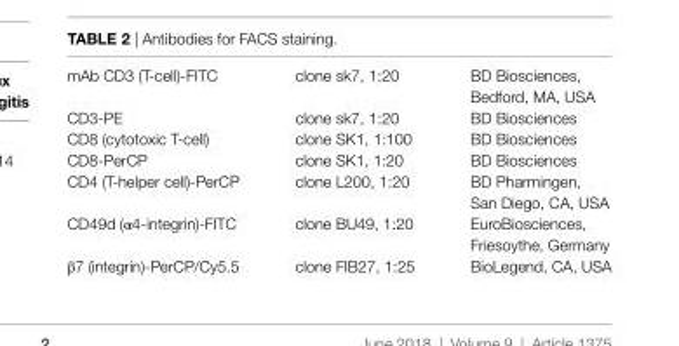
<table><tbody><tr><td>mAb CD3 (T-cell)-FITC</td><td>clone sk7, 1:20</td><td>BD Biosciences, Bedford, MA, USA</td></tr><tr><td>CD3-PE</td><td>clone sk7, 1:20</td><td>BD Biosciences</td></tr><tr><td>CD8 (cytotoxic T-cell)</td><td>clone SK1, 1:100</td><td>BD Biosciences</td></tr><tr><td>CD8-PerCP</td><td>clone SK1, 1:20</td><td>BD Biosciences</td></tr><tr><td>CD4 (T-helper cell)-PerCP</td><td>clone L200, 1:20</td><td>BD Pharmingen, San Diego, CA, USA</td></tr><tr><td>CD49d (α4-integrin)-FITC</td><td>clone BU49, 1:20</td><td>EuroBiosciences, Friesoythe, Germany</td></tr><tr><td>β7 (integrin)-PerCP/Cy5.5</td><td>clone FIB27, 1:25</td><td>BioLegend, CA, USA</td></tr></tbody></table>